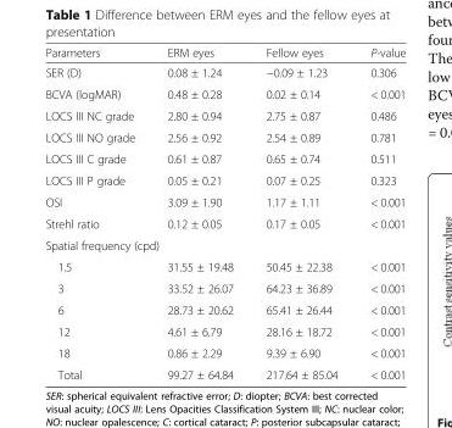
<table><thead><tr><td>Parameters</td><td>ERM eyes</td><td>Fellow eyes</td><td>P-value</td></tr></thead><tbody><tr><td>SER (D)</td><td>0.08 ± 1.24</td><td>−0.09 ± 1.23</td><td>0.306</td></tr><tr><td>BCVA (logMAR)</td><td>0.48 ± 0.28</td><td>0.02 ± 0.14</td><td>&lt; 0.001</td></tr><tr><td>LOCS III NC grade</td><td>2.80 ± 0.94</td><td>2.75 ± 0.87</td><td>0.486</td></tr><tr><td>LOCS III NO grade</td><td>2.56 ± 0.92</td><td>2.54 ± 0.89</td><td>0.781</td></tr><tr><td>LOCS III C grade</td><td>0.61 ± 0.87</td><td>0.65 ± 0.74</td><td>0.511</td></tr><tr><td>LOCS III P grade</td><td>0.05 ± 0.21</td><td>0.07 ± 0.25</td><td>0.323</td></tr><tr><td>OSI</td><td>3.09 ± 1.90</td><td>1.17 ± 1.11</td><td>&lt; 0.001</td></tr><tr><td>Strehl ratio</td><td>0.12 ± 0.05</td><td>0.17 ± 0.05</td><td>&lt; 0.001</td></tr><tr><td colspan="4">Spatial frequency (cpd)</td></tr><tr><td>1.5</td><td>31.55 ± 19.48</td><td>50.45 ± 22.38</td><td>&lt; 0.001</td></tr><tr><td>3</td><td>33.52 ± 26.07</td><td>64.23 ± 36.89</td><td>&lt; 0.001</td></tr><tr><td>6</td><td>28.73 ± 20.62</td><td>65.41 ± 26.44</td><td>&lt; 0.001</td></tr><tr><td>12</td><td>4.61 ± 6.79</td><td>28.16 ± 18.72</td><td>&lt; 0.001</td></tr><tr><td>18</td><td>0.86 ± 2.29</td><td>9.39 ± 6.90</td><td>&lt; 0.001</td></tr><tr><td>Total</td><td>99.27 ± 64.84</td><td>217.64 ± 85.04</td><td>&lt; 0.001</td></tr></tbody></table>